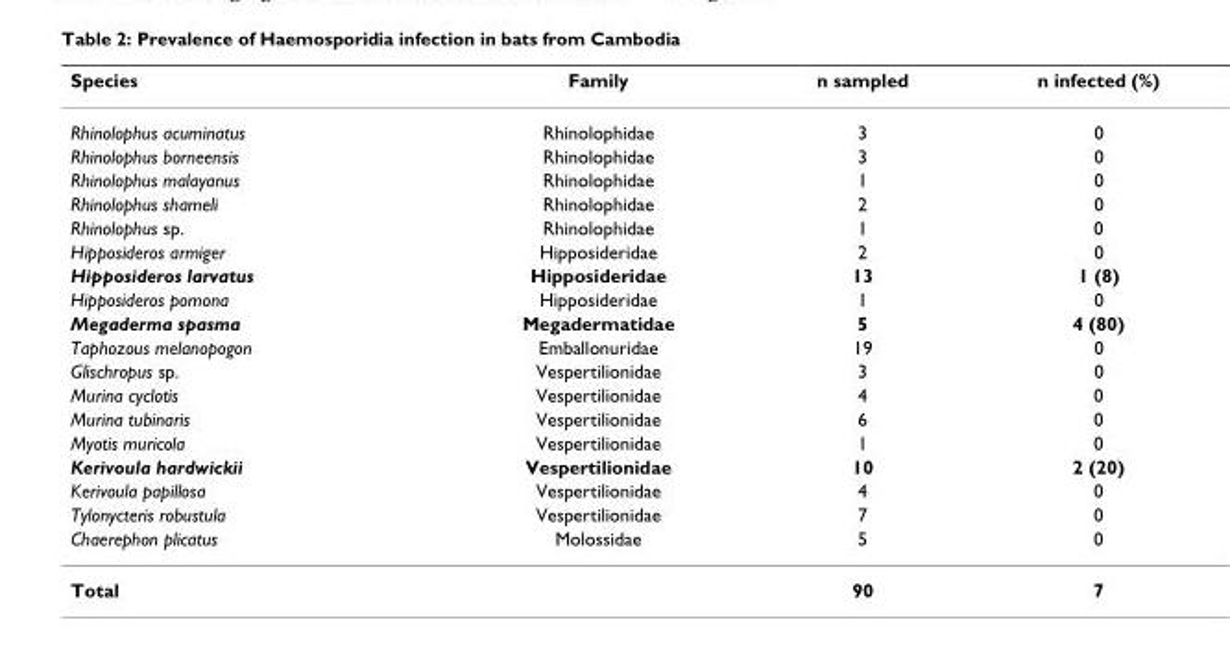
<table><thead><tr><td>Species</td><td>Family</td><td>n sampled</td><td>n infected (%)</td></tr></thead><tbody><tr><td>Rhinolophus acuminatus</td><td>Rhinolophidae</td><td>3</td><td>0</td></tr><tr><td>Rhinolophus borneensis</td><td>Rhinolophidae</td><td>3</td><td>0</td></tr><tr><td>Rhinolophus malayanus</td><td>Rhinolophidae</td><td>1</td><td>0</td></tr><tr><td>Rhinolophus shameli</td><td>Rhinolophidae</td><td>2</td><td>0</td></tr><tr><td>Rhinolophus sp.</td><td>Rhinolophidae</td><td>1</td><td>0</td></tr><tr><td>Hipposideros armiger</td><td>Hipposideridae</td><td>2</td><td>0</td></tr><tr><td>Hipposideros larvatus</td><td>Hipposideridae</td><td>13</td><td>1 (8)</td></tr><tr><td>Hipposideros pomona</td><td>Hipposideridae</td><td>1</td><td>0</td></tr><tr><td>Megaderma spasma</td><td>Megadermatidae</td><td>5</td><td>4 (80)</td></tr><tr><td>Taphozous melanopogon</td><td>Emballonuridae</td><td>19</td><td>0</td></tr><tr><td>Glischropus sp.</td><td>Vespertilionidae</td><td>3</td><td>0</td></tr><tr><td>Murina cyclotis</td><td>Vespertilionidae</td><td>4</td><td>0</td></tr><tr><td>Murina tubinaris</td><td>Vespertilionidae</td><td>6</td><td>0</td></tr><tr><td>Myotis muricola</td><td>Vespertilionidae</td><td>1</td><td>0</td></tr><tr><td>Kerivoula hardwickii</td><td>Vespertilionidae</td><td>10</td><td>2 (20)</td></tr><tr><td>Kerivoula papillosa</td><td>Vespertilionidae</td><td>4</td><td>0</td></tr><tr><td>Tylonycteris robustula</td><td>Vespertilionidae</td><td>7</td><td>0</td></tr><tr><td>Chaerephon plicatus</td><td>Molossidae</td><td>5</td><td>0</td></tr><tr><td colspan="2">Total</td><td>90</td><td>7</td></tr></tbody></table>